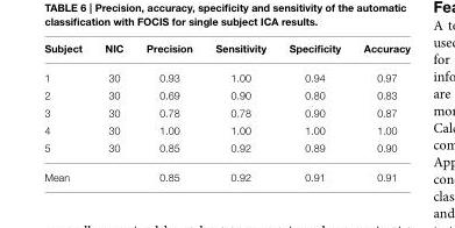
<table><thead><tr><td>Subject</td><td>NIC</td><td>Precision</td><td>Sensitivity</td><td>Specificity</td><td>Accuracy</td></tr></thead><tbody><tr><td>1</td><td>30</td><td>0.93</td><td>1.00</td><td>0.94</td><td>0.97</td></tr><tr><td>2</td><td>30</td><td>0.69</td><td>0.90</td><td>0.80</td><td>0.83</td></tr><tr><td>3</td><td>30</td><td>0.78</td><td>0.78</td><td>0.90</td><td>0.87</td></tr><tr><td>4</td><td>30</td><td>1.00</td><td>1.00</td><td>1.00</td><td>1.00</td></tr><tr><td>5</td><td>30</td><td>0.85</td><td>0.92</td><td>0.89</td><td>0.90</td></tr><tr><td>Mean</td><td></td><td>0.85</td><td>0.92</td><td>0.91</td><td>0.91</td></tr></tbody></table>